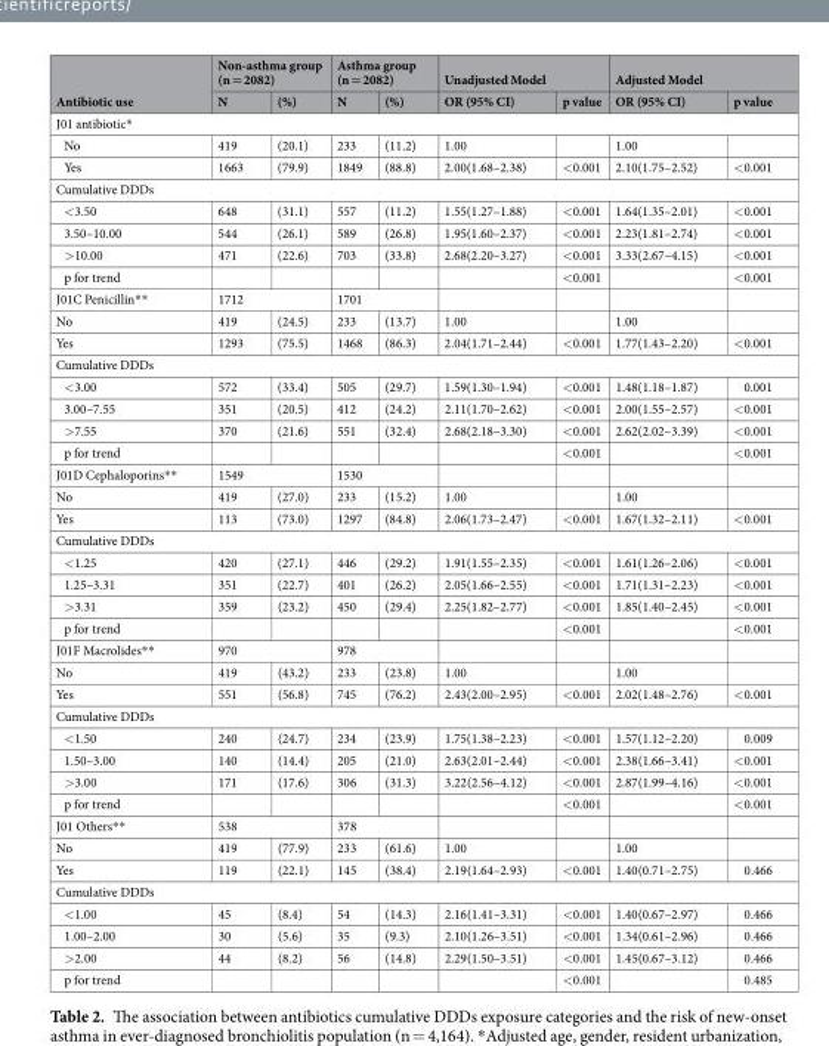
<table><thead><tr><td rowspan="2">Antibiotic use</td><td colspan="2">Non-asthma group (n = 2082)</td><td colspan="2">Asthma group (n = 2082)</td><td colspan="2">Unadjusted Model</td><td colspan="2">Adjusted Model</td></tr><tr><td>N</td><td>(%)</td><td>N</td><td>(%)</td><td>OR (95% CI)</td><td>p value</td><td>OR (95% CI)</td><td>p value</td></tr></thead><tbody><tr><td colspan="9">J01 antibiotic*</td></tr><tr><td>No</td><td>419</td><td>(20.1)</td><td>233</td><td>(11.2)</td><td>1.00</td><td></td><td>1.00</td><td></td></tr><tr><td>Yes</td><td>1663</td><td>(79.9)</td><td>1849</td><td>(88.8)</td><td>2.00(1.68–2.38)</td><td>&lt;0.001</td><td>2.10(1.75–2.52)</td><td>&lt;0.001</td></tr><tr><td colspan="9">Cumulative DDDs</td></tr><tr><td>&lt;3.50</td><td>648</td><td>(31.1)</td><td>557</td><td>(11.2)</td><td>1.55(1.27–1.88)</td><td>&lt;0.001</td><td>1.64(1.35–2.01)</td><td>&lt;0.001</td></tr><tr><td>3.50–10.00</td><td>544</td><td>(26.1)</td><td>589</td><td>(26.8)</td><td>1.95(1.60–2.37)</td><td>&lt;0.001</td><td>2.23(1.81–2.74)</td><td>&lt;0.001</td></tr><tr><td>&gt;10.00</td><td>471</td><td>(22.6)</td><td>703</td><td>(33.8)</td><td>2.68(2.20–3.27)</td><td>&lt;0.001</td><td>3.33(2.67–4.15)</td><td>&lt;0.001</td></tr><tr><td>p for trend</td><td></td><td></td><td></td><td></td><td></td><td>&lt;0.001</td><td></td><td>&lt;0.001</td></tr><tr><td>J01C Penicillin**</td><td colspan="2">1712</td><td colspan="2">1701</td><td></td><td></td><td></td><td></td></tr><tr><td>No</td><td>419</td><td>(24.5)</td><td>233</td><td>(13.7)</td><td>1.00</td><td></td><td>1.00</td><td></td></tr><tr><td>Yes</td><td>1293</td><td>(75.5)</td><td>1468</td><td>(86.3)</td><td>2.04(1.71–2.44)</td><td>&lt;0.001</td><td>1.77(1.43–2.20)</td><td>&lt;0.001</td></tr><tr><td colspan="9">Cumulative DDDs</td></tr><tr><td>&lt;3.00</td><td>572</td><td>(33.4)</td><td>505</td><td>(29.7)</td><td>1.59(1.30–1.94)</td><td>&lt;0.001</td><td>1.48(1.18–1.87)</td><td>0.001</td></tr><tr><td>3.00–7.55</td><td>351</td><td>(20.5)</td><td>412</td><td>(24.2)</td><td>2.11(1.70–2.62)</td><td>&lt;0.001</td><td>2.00(1.55–2.57)</td><td>&lt;0.001</td></tr><tr><td>&gt;7.55</td><td>370</td><td>(21.6)</td><td>551</td><td>(32.4)</td><td>2.68(2.18–3.30)</td><td>&lt;0.001</td><td>2.62(2.02–3.39)</td><td>&lt;0.001</td></tr><tr><td>p for trend</td><td></td><td></td><td></td><td></td><td></td><td>&lt;0.001</td><td></td><td>&lt;0.001</td></tr><tr><td>J01D Cephaloporins**</td><td colspan="2">1549</td><td colspan="2">1530</td><td></td><td></td><td></td><td></td></tr><tr><td>No</td><td>419</td><td>(27.0)</td><td>233</td><td>(15.2)</td><td>1.00</td><td></td><td>1.00</td><td></td></tr><tr><td>Yes</td><td>113</td><td>(73.0)</td><td>1297</td><td>(84.8)</td><td>2.06(1.73–2.47)</td><td>&lt;0.001</td><td>1.67(1.32–2.11)</td><td>&lt;0.001</td></tr><tr><td colspan="9">Cumulative DDDs</td></tr><tr><td>&lt;1.25</td><td>420</td><td>(27.1)</td><td>446</td><td>(29.2)</td><td>1.91(1.55–2.35)</td><td>&lt;0.001</td><td>1.61(1.26–2.06)</td><td>&lt;0.001</td></tr><tr><td>1.25–3.31</td><td>351</td><td>(22.7)</td><td>401</td><td>(26.2)</td><td>2.05(1.66–2.55)</td><td>&lt;0.001</td><td>1.71(1.31–2.23)</td><td>&lt;0.001</td></tr><tr><td>&gt;3.31</td><td>359</td><td>(23.2)</td><td>450</td><td>(29.4)</td><td>2.25(1.82–2.77)</td><td>&lt;0.001</td><td>1.85(1.40–2.45)</td><td>&lt;0.001</td></tr><tr><td>p for trend</td><td></td><td></td><td></td><td></td><td></td><td>&lt;0.001</td><td></td><td>&lt;0.001</td></tr><tr><td>J01F Macrolides**</td><td colspan="2">970</td><td colspan="2">978</td><td></td><td></td><td></td><td></td></tr><tr><td>No</td><td>419</td><td>(43.2)</td><td>233</td><td>(23.8)</td><td>1.00</td><td></td><td>1.00</td><td></td></tr><tr><td>Yes</td><td>551</td><td>(56.8)</td><td>745</td><td>(76.2)</td><td>2.43(2.00–2.95)</td><td>&lt;0.001</td><td>2.02(1.48–2.76)</td><td>&lt;0.001</td></tr><tr><td colspan="9">Cumulative DDDs</td></tr><tr><td>&lt;1.50</td><td>240</td><td>(24.7)</td><td>234</td><td>(23.9)</td><td>1.75(1.38–2.23)</td><td>&lt;0.001</td><td>1.57(1.12–2.20)</td><td>0.009</td></tr><tr><td>1.50–3.00</td><td>140</td><td>(14.4)</td><td>205</td><td>(21.0)</td><td>2.63(2.01–2.44)</td><td>&lt;0.001</td><td>2.38(1.66–3.41)</td><td>&lt;0.001</td></tr><tr><td>&gt;3.00</td><td>171</td><td>(17.6)</td><td>306</td><td>(31.3)</td><td>3.22(2.56–4.12)</td><td>&lt;0.001</td><td>2.87(1.99–4.16)</td><td>&lt;0.001</td></tr><tr><td>p for trend</td><td></td><td></td><td></td><td></td><td></td><td>&lt;0.001</td><td></td><td>&lt;0.001</td></tr><tr><td>J01 Others**</td><td colspan="2">538</td><td colspan="2">378</td><td></td><td></td><td></td><td></td></tr><tr><td>No</td><td>419</td><td>(77.9)</td><td>233</td><td>(61.6)</td><td>1.00</td><td></td><td>1.00</td><td></td></tr><tr><td>Yes</td><td>119</td><td>(22.1)</td><td>145</td><td>(38.4)</td><td>2.19(1.64–2.93)</td><td>&lt;0.001</td><td>1.40(0.71–2.75)</td><td>0.466</td></tr><tr><td colspan="9">Cumulative DDDs</td></tr><tr><td>&lt;1.00</td><td>45</td><td>(8.4)</td><td>54</td><td>(14.3)</td><td>2.16(1.41–3.31)</td><td>&lt;0.001</td><td>1.40(0.67–2.97)</td><td>0.466</td></tr><tr><td>1.00–2.00</td><td>30</td><td>(5.6)</td><td>35</td><td>(9.3)</td><td>2.10(1.26–3.51)</td><td>&lt;0.001</td><td>1.34(0.61–2.96)</td><td>0.466</td></tr><tr><td>&gt;2.00</td><td>44</td><td>(8.2)</td><td>56</td><td>(14.8)</td><td>2.29(1.50–3.51)</td><td>&lt;0.001</td><td>1.45(0.67–3.12)</td><td>0.466</td></tr><tr><td>p for trend</td><td></td><td></td><td></td><td></td><td></td><td>&lt;0.001</td><td></td><td>0.485</td></tr></tbody></table>